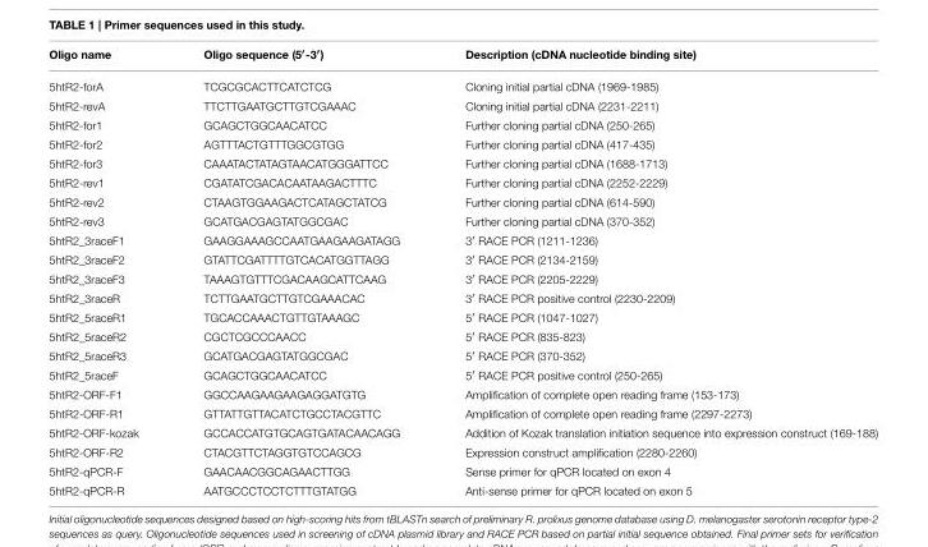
<table><thead><tr><td>Oligo name</td><td>Oligo sequence (5′-3′)</td><td>Description (cDNA nucleotide binding site)</td></tr></thead><tbody><tr><td>5htR2-forA</td><td>TCGCGCACTTCATCTCG</td><td>Cloning initial partial cDNA (1969-1985)</td></tr><tr><td>5htR2-revA</td><td>TTCTTGAATGCTTGTCGAAAC</td><td>Cloning initial partial cDNA (2231-2211)</td></tr><tr><td>5htR2-for1</td><td>GCAGCTGGCAACATCC</td><td>Further cloning partial cDNA (250-265)</td></tr><tr><td>5htR2-for2</td><td>AGTTTACTGTTTGGCGTGG</td><td>Further cloning partial cDNA (417-435)</td></tr><tr><td>5htR2-for3</td><td>CAAATACTATAGTAACATGGGATTCC</td><td>Further cloning partial cDNA (1688-1713)</td></tr><tr><td>5htR2-rev1</td><td>CGATATCGACACAATAAGACTTTC</td><td>Further cloning partial cDNA (2252-2229)</td></tr><tr><td>5htR2-rev2</td><td>CTAAGTGGAAGACTCATAGCTATCG</td><td>Further cloning partial cDNA (614-590)</td></tr><tr><td>5htR2-rev3</td><td>GCATGACGAGTATGGCGAC</td><td>Further cloning partial cDNA (370-352)</td></tr><tr><td>5htR2_3raceF1</td><td>GAAGGAAAGCCAATGAAGAAGATAGG</td><td>3′ RACE PCR (1211-1236)</td></tr><tr><td>5htR2_3raceF2</td><td>GTATTCGATTTTGTCACATGGTTAGG</td><td>3′ RACE PCR (2134-2159)</td></tr><tr><td>5htR2_3raceF3</td><td>TAAAGTGTTTCGACAAGCATTCAAG</td><td>3′ RACE PCR (2205-2229)</td></tr><tr><td>5htR2_3raceR</td><td>TCTTGAATGCTTGTCGAAACAC</td><td>3′ RACE PCR positive control (2230-2209)</td></tr><tr><td>5htR2_5raceR1</td><td>TGCACCAAACTGTTGTAAAGC</td><td>5′ RACE PCR (1047-1027)</td></tr><tr><td>5htR2_5raceR2</td><td>CGCTCGCCCAACC</td><td>5′ RACE PCR (835-823)</td></tr><tr><td>5htR2_5raceR3</td><td>GCATGACGAGTATGGCGAC</td><td>5′ RACE PCR (370-352)</td></tr><tr><td>5htR2_5raceF</td><td>GCAGCTGGCAACATCC</td><td>5′ RACE PCR positive control (250-265)</td></tr><tr><td>5htR2-ORF-F1</td><td>GGCCAAGAAGAAGAGGATGTG</td><td>Amplification of complete open reading frame (153-173)</td></tr><tr><td>5htR2-ORF-R1</td><td>GTTATTGTTACATCTGCCTACGTTC</td><td>Amplification of complete open reading frame (2297-2273)</td></tr><tr><td>5htR2-ORF-kozak</td><td>GCCACCATGTGCAGTGATACAACAGG</td><td>Addition of Kozak translation initiation sequence into expression construct (169-188)</td></tr><tr><td>5htR2-ORF-R2</td><td>CTACGTTCTAGGTGTCCAGCG</td><td>Expression construct amplification (2280-2260)</td></tr><tr><td>5htR2-qPCR-F</td><td>GAACAACGGCAGAACTTGG</td><td>Sense primer for qPCR located on exon 4</td></tr><tr><td>5htR2-qPCR-R</td><td>AATGCCCTCCTCTTTGTATGG</td><td>Anti-sense primer for qPCR located on exon 5</td></tr></tbody></table>